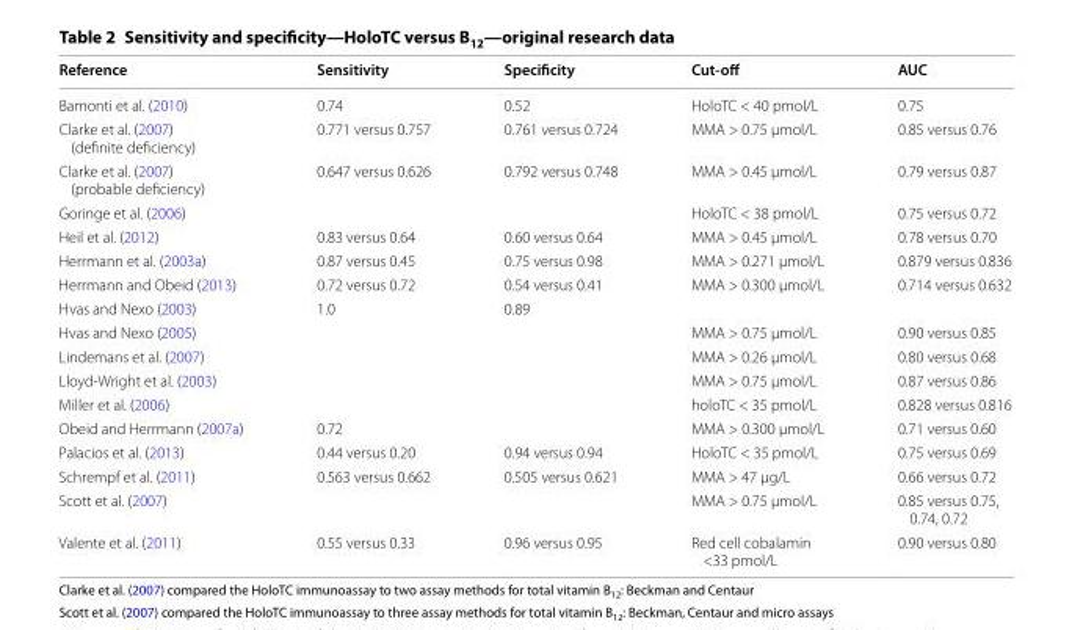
<table><thead><tr><td>Reference</td><td>Sensitivity</td><td>Specificity</td><td>Cut-off</td><td>AUC</td></tr></thead><tbody><tr><td>Bamonti et al. (2010)</td><td>0.74</td><td>0.52</td><td>HoloTC &lt; 40 pmol/L</td><td>0.75</td></tr><tr><td>Clarke et al. (2007) (definite deficiency)</td><td>0.771 versus 0.757</td><td>0.761 versus 0.724</td><td>MMA &gt; 0.75 μmol/L</td><td>0.85 versus 0.76</td></tr><tr><td>Clarke et al. (2007) (probable deficiency)</td><td>0.647 versus 0.626</td><td>0.792 versus 0.748</td><td>MMA &gt; 0.45 μmol/L</td><td>0.79 versus 0.87</td></tr><tr><td>Goringe et al. (2006)</td><td></td><td></td><td>HoloTC &lt; 38 pmol/L</td><td>0.75 versus 0.72</td></tr><tr><td>Heil et al. (2012)</td><td>0.83 versus 0.64</td><td>0.60 versus 0.64</td><td>MMA &gt; 0.45 μmol/L</td><td>0.78 versus 0.70</td></tr><tr><td>Herrmann et al. (2003a)</td><td>0.87 versus 0.45</td><td>0.75 versus 0.98</td><td>MMA &gt; 0.271 μmol/L</td><td>0.879 versus 0.836</td></tr><tr><td>Herrmann and Obeid (2013)</td><td>0.72 versus 0.72</td><td>0.54 versus 0.41</td><td>MMA &gt; 0.300 μmol/L</td><td>0.714 versus 0.632</td></tr><tr><td>Hvas and Nexo (2003)</td><td>1.0</td><td>0.89</td><td></td><td></td></tr><tr><td>Hvas and Nexo (2005)</td><td></td><td></td><td>MMA &gt; 0.75 μmol/L</td><td>0.90 versus 0.85</td></tr><tr><td>Lindemans et al. (2007)</td><td></td><td></td><td>MMA &gt; 0.26 μmol/L</td><td>0.80 versus 0.68</td></tr><tr><td>Lloyd-Wright et al. (2003)</td><td></td><td></td><td>MMA &gt; 0.75 μmol/L</td><td>0.87 versus 0.86</td></tr><tr><td>Miller et al. (2006)</td><td></td><td></td><td>holoTC &lt; 35 pmol/L</td><td>0.828 versus 0.816</td></tr><tr><td>Obeid and Herrmann (2007a)</td><td>0.72</td><td></td><td>MMA &gt; 0.300 μmol/L</td><td>0.71 versus 0.60</td></tr><tr><td>Palacios et al. (2013)</td><td>0.44 versus 0.20</td><td>0.94 versus 0.94</td><td>HoloTC &lt; 35 pmol/L</td><td>0.75 versus 0.69</td></tr><tr><td>Schrempf et al. (2011)</td><td>0.563 versus 0.662</td><td>0.505 versus 0.621</td><td>MMA &gt; 47 μg/L</td><td>0.66 versus 0.72</td></tr><tr><td>Scott et al. (2007)</td><td></td><td></td><td>MMA &gt; 0.75 μmol/L</td><td>0.85 versus 0.75, 0.74, 0.72</td></tr><tr><td>Valente et al. (2011)</td><td>0.55 versus 0.33</td><td>0.96 versus 0.95</td><td>Red cell cobalamin &lt;33 pmol/L</td><td>0.90 versus 0.80</td></tr></tbody></table>